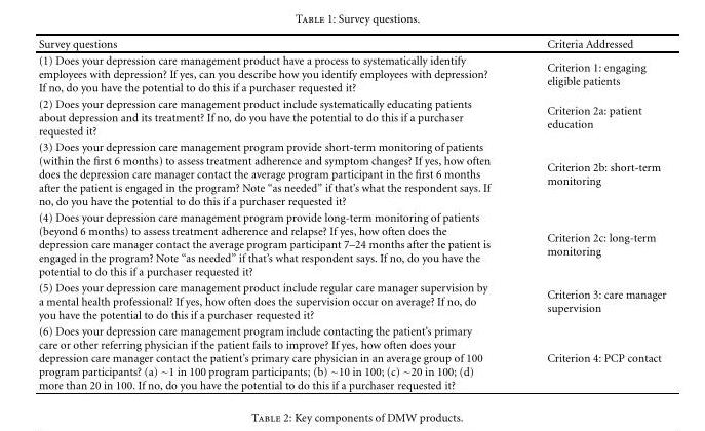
<table><thead><tr><td>Survey questions</td><td>Criteria Addressed</td></tr></thead><tbody><tr><td>(1) Does your depression care management product have a process to systematically identify employees with depression? If yes, can you describe how you identify employees with depression? If no, do you have the potential to do this if a purchaser requested it?</td><td>Criterion 1: engaging eligible patients</td></tr><tr><td>(2) Does your depression care management product include systematically educating patients about depression and its treatment? If no, do you have the potential to do this if a purchaser requested it?</td><td>Criterion 2a: patient education</td></tr><tr><td>(3) Does your depression care management program provide short-term monitoring of patients (within the first 6 months) to assess treatment adherence and symptom changes? If yes, how often does the depression care manager contact the average program participant in the first 6 months after the patient is engaged in the program? Note “as needed” if that’s what the respondent says. If no, do you have the potential to do this if a purchaser requested it?</td><td>Criterion 2b: short-term monitoring</td></tr><tr><td>(4) Does your depression care management program provide long-term monitoring of patients (beyond 6 months) to assess treatment adherence and relapse? If yes, how often does the depression care manager contact the average program participant 7–24 months after the patient is engaged in the program? Note “as needed” if that’s what respondent says. If no, do you have the potential to do this if a purchaser requested it?</td><td>Criterion 2c: long-term monitoring</td></tr><tr><td>(5) Does your depression care management product include regular care manager supervision by a mental health professional? If yes, how often does the supervision occur on average? If no, do you have the potential to do this if a purchaser requested it?</td><td>Criterion 3: care manager supervision</td></tr><tr><td>(6) Does your depression care management program include contacting the patient’s primary care or other referring physician if the patient fails to improve? If yes, how often does your depression care manager contact the patient’s primary care physician in an average group of 100 program participants? (a) ∼1 in 100 program participants; (b) ∼10 in 100; (c) ∼20 in 100; (d) more than 20 in 100. If no, do you have the potential to do this if a purchaser requested it?</td><td>Criterion 4: PCP contact</td></tr></tbody></table>